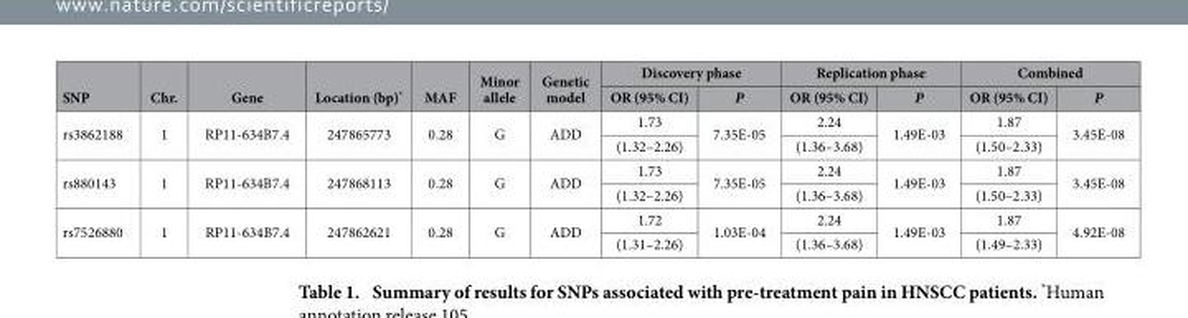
<table><thead><tr><td rowspan="2">SNP</td><td rowspan="2">Chr.</td><td rowspan="2">Gene</td><td rowspan="2">Location (bp)*</td><td rowspan="2">MAF</td><td rowspan="2">Minor allele</td><td rowspan="2">Genetic model</td><td colspan="2">Discovery phase</td><td colspan="2">Replication phase</td><td colspan="2">Combined</td></tr><tr><td>OR (95% CI)</td><td>P</td><td>OR (95% CI)</td><td>P</td><td>OR (95% CI)</td><td>P</td></tr></thead><tbody><tr><td rowspan="2">rs3862188</td><td rowspan="2">1</td><td rowspan="2">RP11-634B7.4</td><td rowspan="2">247865773</td><td rowspan="2">0.28</td><td rowspan="2">G</td><td rowspan="2">ADD</td><td>1.73</td><td rowspan="2">7.35E-05</td><td>2.24</td><td rowspan="2">1.49E-03</td><td>1.87</td><td rowspan="2">3.45E-08</td></tr><tr><td>(1.32–2.26)</td><td>(1.36–3.68)</td><td>(1.50–2.33)</td></tr><tr><td rowspan="2">rs880143</td><td rowspan="2">1</td><td rowspan="2">RP11-634B7.4</td><td rowspan="2">247868113</td><td rowspan="2">0.28</td><td rowspan="2">G</td><td rowspan="2">ADD</td><td>1.73</td><td rowspan="2">7.35E-05</td><td>2.24</td><td rowspan="2">1.49E-03</td><td>1.87</td><td rowspan="2">3.45E-08</td></tr><tr><td>(1.32–2.26)</td><td>(1.36–3.68)</td><td>(1.50–2.33)</td></tr><tr><td rowspan="2">rs7526880</td><td rowspan="2">1</td><td rowspan="2">RP11-634B7.4</td><td rowspan="2">247862621</td><td rowspan="2">0.28</td><td rowspan="2">G</td><td rowspan="2">ADD</td><td>1.72</td><td rowspan="2">1.03E-04</td><td>2.24</td><td rowspan="2">1.49E-03</td><td>1.87</td><td rowspan="2">4.92E-08</td></tr><tr><td>(1.31–2.26)</td><td>(1.36–3.68)</td><td>(1.49–2.33)</td></tr></tbody></table>